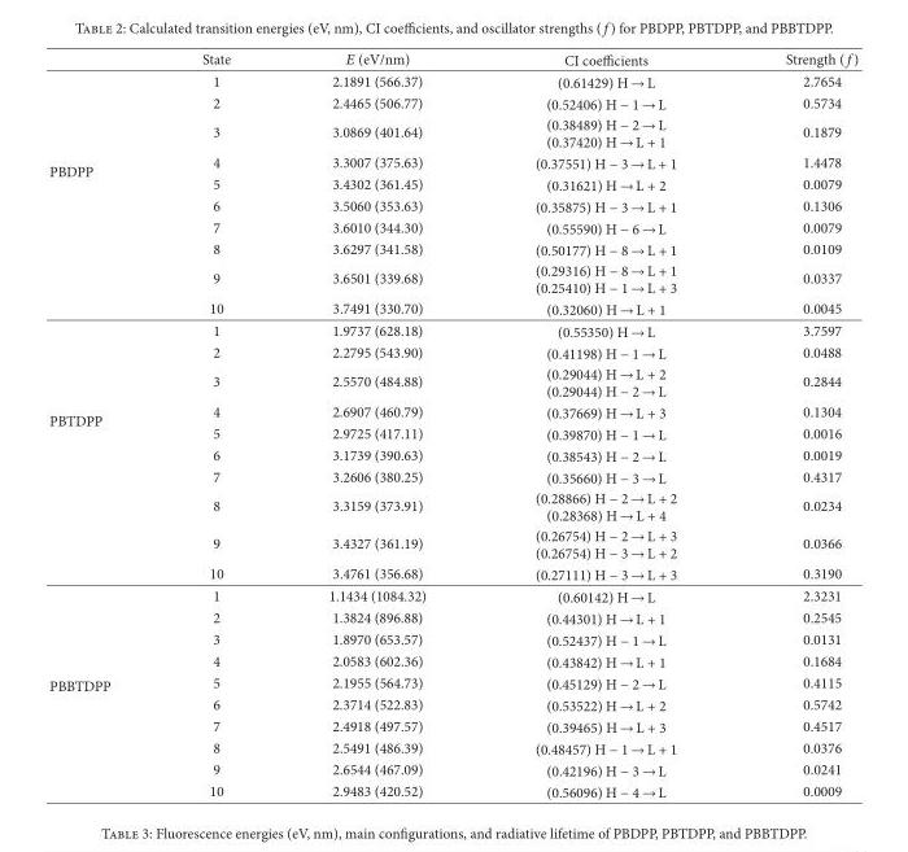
<table><thead><tr><td></td><td>State</td><td>𝐸𝐸 (eV/nm)</td><td>CI coefficients</td><td>Strength (𝑓𝑓)</td></tr></thead><tbody><tr><td rowspan="10">PBDPP</td><td>1</td><td>2.1891 (566.37)</td><td>(0.61429) H → L</td><td>2.7654</td></tr><tr><td>2</td><td>2.4465 (506.77)</td><td>(0.52406) H − 1 → L</td><td>0.5734</td></tr><tr><td>3</td><td>3.0869 (401.64)</td><td>(0.38489) H − 2 → L (0.37420) H → L + 1</td><td>0.1879</td></tr><tr><td>4</td><td>3.3007 (375.63)</td><td>(0.37551) H − 3 → L + 1</td><td>1.4478</td></tr><tr><td>5</td><td>3.4302 (361.45)</td><td>(0.31621) H → L + 2</td><td>0.0079</td></tr><tr><td>6</td><td>3.5060 (353.63)</td><td>(0.35875) H − 3 → L + 1</td><td>0.1306</td></tr><tr><td>7</td><td>3.6010 (344.30)</td><td>(0.55590) H − 6 → L</td><td>0.0079</td></tr><tr><td>8</td><td>3.6297 (341.58)</td><td>(0.50177) H − 8 → L + 1</td><td>0.0109</td></tr><tr><td>9</td><td>3.6501 (339.68)</td><td>(0.29316) H − 8 → L + 1 (0.25410) H − 1 → L + 3</td><td>0.0337</td></tr><tr><td>10</td><td>3.7491 (330.70)</td><td>(0.32060) H → L + 1</td><td>0.0045</td></tr><tr><td rowspan="10">PBTDPP</td><td>1</td><td>1.9737 (628.18)</td><td>(0.55350) H → L</td><td>3.7597</td></tr><tr><td>2</td><td>2.2795 (543.90)</td><td>(0.41198) H − 1 → L</td><td>0.0488</td></tr><tr><td>3</td><td>2.5570 (484.88)</td><td>(0.29044) H → L + 2 (0.29044) H − 2 → L</td><td>0.2844</td></tr><tr><td>4</td><td>2.6907 (460.79)</td><td>(0.37669) H → L + 3</td><td>0.1304</td></tr><tr><td>5</td><td>2.9725 (417.11)</td><td>(0.39870) H − 1 → L</td><td>0.0016</td></tr><tr><td>6</td><td>3.1739 (390.63)</td><td>(0.38543) H − 2 → L</td><td>0.0019</td></tr><tr><td>7</td><td>3.2606 (380.25)</td><td>(0.35660) H − 3 → L</td><td>0.4317</td></tr><tr><td>8</td><td>3.3159 (373.91)</td><td>(0.28866) H − 2 → L + 2 (0.28368) H → L + 4</td><td>0.0234</td></tr><tr><td>9</td><td>3.4327 (361.19)</td><td>(0.26754) H − 2 → L + 3 (0.26754) H − 3 → L + 2</td><td>0.0366</td></tr><tr><td>10</td><td>3.4761 (356.68)</td><td>(0.27111) H − 3 → L + 3</td><td>0.3190</td></tr><tr><td rowspan="10">PBBTDPP</td><td>1</td><td>1.1434 (1084.32)</td><td>(0.60142) H → L</td><td>2.3231</td></tr><tr><td>2</td><td>1.3824 (896.88)</td><td>(0.44301) H → L + 1</td><td>0.2545</td></tr><tr><td>3</td><td>1.8970 (653.57)</td><td>(0.52437) H − 1 → L</td><td>0.0131</td></tr><tr><td>4</td><td>2.0583 (602.36)</td><td>(0.43842) H → L + 1</td><td>0.1684</td></tr><tr><td>5</td><td>2.1955 (564.73)</td><td>(0.45129) H − 2 → L</td><td>0.4115</td></tr><tr><td>6</td><td>2.3714 (522.83)</td><td>(0.53522) H → L + 2</td><td>0.5742</td></tr><tr><td>7</td><td>2.4918 (497.57)</td><td>(0.39465) H → L + 3</td><td>0.4517</td></tr><tr><td>8</td><td>2.5491 (486.39)</td><td>(0.48457) H − 1 → L + 1</td><td>0.0376</td></tr><tr><td>9</td><td>2.6544 (467.09)</td><td>(0.42196) H − 3 → L</td><td>0.0241</td></tr><tr><td>10</td><td>2.9483 (420.52)</td><td>(0.56096) H − 4 → L</td><td>0.0009</td></tr></tbody></table>